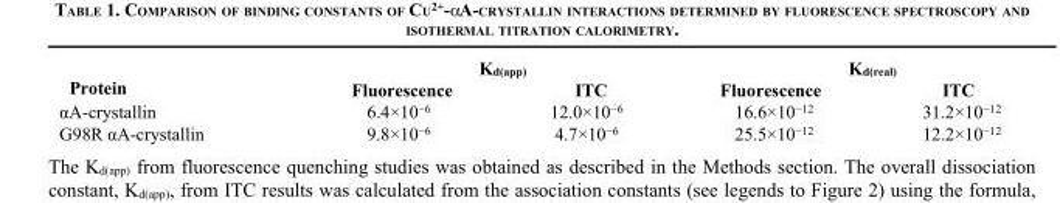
<table><tbody><tr><td rowspan="2">Protein</td><td colspan="2">K<sub>d(app)</sub></td><td colspan="2">K<sub>d(real)</sub></td></tr><tr><td>Fluorescence</td><td>ITC</td><td>Fluorescence</td><td>ITC</td></tr><tr><td>αA-crystallin</td><td>6.4×10<sup>−6</sup></td><td>12.0×10<sup>−6</sup></td><td>16.6×10<sup>−12</sup></td><td>31.2×10<sup>−12</sup></td></tr><tr><td>G98R αA-crystallin</td><td>9.8×10<sup>−6</sup></td><td>4.7×10<sup>−6</sup></td><td>25.5×10<sup>−12</sup></td><td>12.2×10<sup>−12</sup></td></tr></tbody></table>